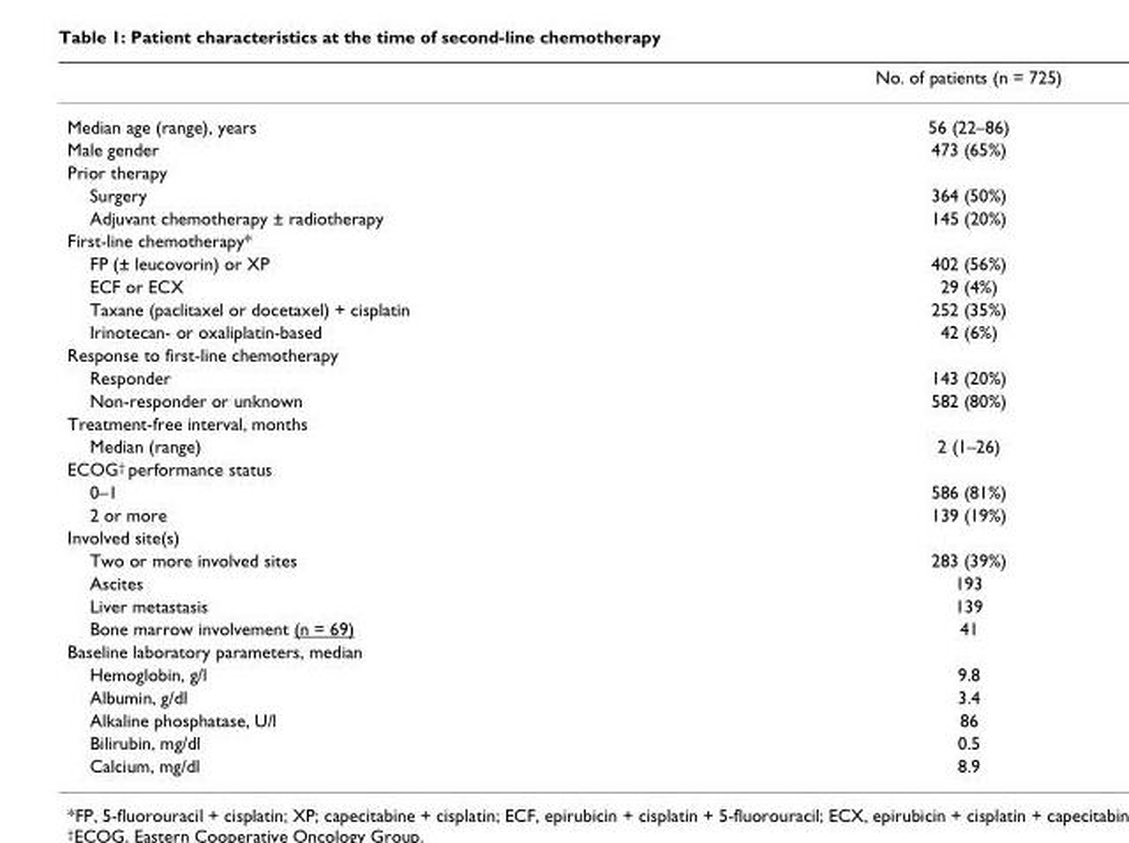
<table><thead><tr><td></td><td>No. of patients (n = 725)</td></tr></thead><tbody><tr><td>Median age (range), years</td><td>56 (22–86)</td></tr><tr><td>Male gender</td><td>473 (65%)</td></tr><tr><td colspan="2">Prior therapy</td></tr><tr><td>Surgery</td><td>364 (50%)</td></tr><tr><td>Adjuvant chemotherapy ± radiotherapy</td><td>145 (20%)</td></tr><tr><td colspan="2">First-line chemotherapy*</td></tr><tr><td>FP (± leucovorin) or XP</td><td>402 (56%)</td></tr><tr><td>ECF or ECX</td><td>29 (4%)</td></tr><tr><td>Taxane (paclitaxel or docetaxel) + cisplatin</td><td>252 (35%)</td></tr><tr><td>Irinotecan- or oxaliplatin-based</td><td>42 (6%)</td></tr><tr><td colspan="2">Response to first-line chemotherapy</td></tr><tr><td>Responder</td><td>143 (20%)</td></tr><tr><td>Non-responder or unknown</td><td>582 (80%)</td></tr><tr><td colspan="2">Treatment-free interval, months</td></tr><tr><td>Median (range)</td><td>2 (1–26)</td></tr><tr><td colspan="2">ECOG<sup>†</sup> performance status</td></tr><tr><td>0–1</td><td>586 (81%)</td></tr><tr><td>2 or more</td><td>139 (19%)</td></tr><tr><td colspan="2">Involved site(s)</td></tr><tr><td>Two or more involved sites</td><td>283 (39%)</td></tr><tr><td>Ascites</td><td>193</td></tr><tr><td>Liver metastasis</td><td>139</td></tr><tr><td>Bone marrow involvement (n = 69)</td><td>41</td></tr><tr><td colspan="2">Baseline laboratory parameters, median</td></tr><tr><td>Hemoglobin, g/l</td><td>9.8</td></tr><tr><td>Albumin, g/dl</td><td>3.4</td></tr><tr><td>Alkaline phosphatase, U/l</td><td>86</td></tr><tr><td>Bilirubin, mg/dl</td><td>0.5</td></tr><tr><td>Calcium, mg/dl</td><td>8.9</td></tr></tbody></table>